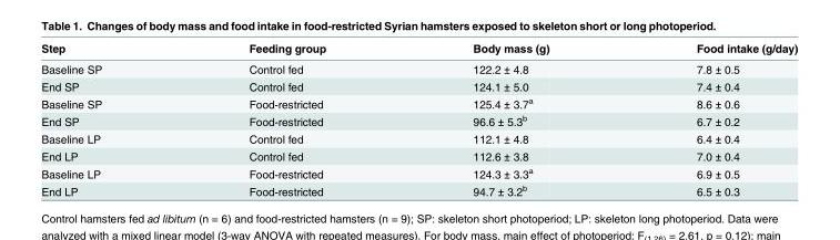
<table><thead><tr><td>Step</td><td>Feeding group</td><td>Body mass (g)</td><td>Food intake (g/day)</td></tr></thead><tbody><tr><td>Baseline SP</td><td>Control fed</td><td>122.2 ± 4.8</td><td>7.8 ± 0.5</td></tr><tr><td>End SP</td><td>Control fed</td><td>124.1 ± 5.0</td><td>7.4 ± 0.4</td></tr><tr><td>Baseline SP</td><td>Food-restricted</td><td>125.4 ± 3.7<sup>a</sup></td><td>8.6 ± 0.6</td></tr><tr><td>End SP</td><td>Food-restricted</td><td>96.6 ± 5.3<sup>b</sup></td><td>6.7 ± 0.2</td></tr><tr><td>Baseline LP</td><td>Control fed</td><td>112.1 ± 4.8</td><td>6.4 ± 0.4</td></tr><tr><td>End LP</td><td>Control fed</td><td>112.6 ± 3.8</td><td>7.0 ± 0.4</td></tr><tr><td>Baseline LP</td><td>Food-restricted</td><td>124.3 ± 3.3<sup>a</sup></td><td>6.9 ± 0.5</td></tr><tr><td>End LP</td><td>Food-restricted</td><td>94.7 ± 3.2<sup>b</sup></td><td>6.5 ± 0.3</td></tr></tbody></table>